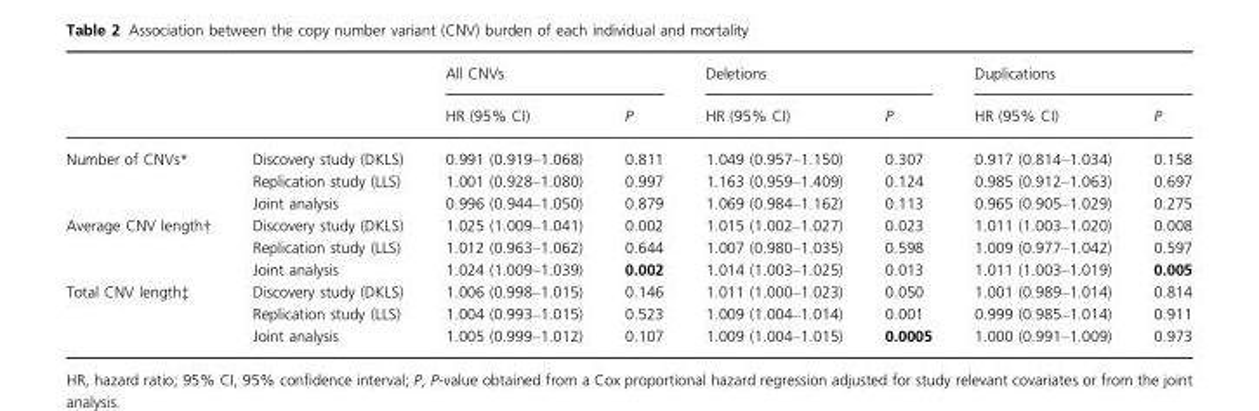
<table><thead><tr><td rowspan="2"></td><td rowspan="2"></td><td colspan="2">All CNVs</td><td colspan="2">Deletions</td><td colspan="2">Duplications</td></tr><tr><td>HR (95% CI)</td><td>P</td><td>HR (95% CI)</td><td>P</td><td>HR (95% CI)</td><td>P</td></tr></thead><tbody><tr><td rowspan="3">Number of CNVs*</td><td>Discovery study (DKLS)</td><td>0.991 (0.919–1.068)</td><td>0.811</td><td>1.049 (0.957–1.150)</td><td>0.307</td><td>0.917 (0.814–1.034)</td><td>0.158</td></tr><tr><td>Replication study (LLS)</td><td>1.001 (0.928–1.080)</td><td>0.997</td><td>1.163 (0.959–1.409)</td><td>0.124</td><td>0.985 (0.912–1.063)</td><td>0.697</td></tr><tr><td>Joint analysis</td><td>0.996 (0.944–1.050)</td><td>0.879</td><td>1.069 (0.984–1.162)</td><td>0.113</td><td>0.965 (0.905–1.029)</td><td>0.275</td></tr><tr><td rowspan="3">Average CNV length†</td><td>Discovery study (DKLS)</td><td>1.025 (1.009–1.041)</td><td>0.002</td><td>1.015 (1.002–1.027)</td><td>0.023</td><td>1.011 (1.003–1.020)</td><td>0.008</td></tr><tr><td>Replication study (LLS)</td><td>1.012 (0.963–1.062)</td><td>0.644</td><td>1.007 (0.980–1.035)</td><td>0.598</td><td>1.009 (0.977–1.042)</td><td>0.597</td></tr><tr><td>Joint analysis</td><td>1.024 (1.009–1.039)</td><td>0.002</td><td>1.014 (1.003–1.025)</td><td>0.013</td><td>1.011 (1.003–1.019)</td><td>0.005</td></tr><tr><td rowspan="3">Total CNV length‡</td><td>Discovery study (DKLS)</td><td>1.006 (0.998–1.015)</td><td>0.146</td><td>1.011 (1.000–1.023)</td><td>0.050</td><td>1.001 (0.989–1.014)</td><td>0.814</td></tr><tr><td>Replication study (LLS)</td><td>1.004 (0.993–1.015)</td><td>0.523</td><td>1.009 (1.004–1.014)</td><td>0.001</td><td>0.999 (0.985–1.014)</td><td>0.911</td></tr><tr><td>Joint analysis</td><td>1.005 (0.999–1.012)</td><td>0.107</td><td>1.009 (1.004–1.015)</td><td>0.0005</td><td>1.000 (0.991–1.009)</td><td>0.973</td></tr></tbody></table>